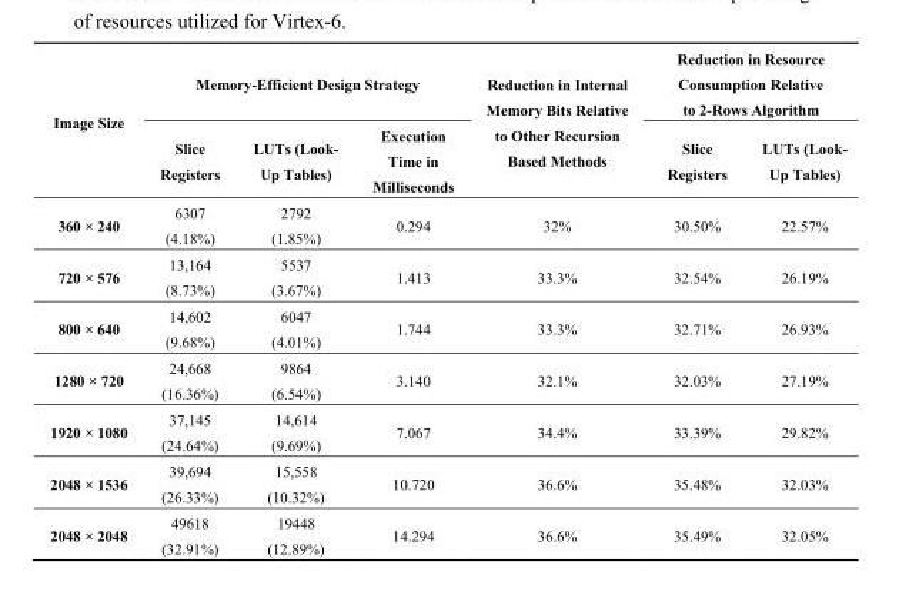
<table><thead><tr><td rowspan="2">Image Size</td><td colspan="3">Memory-Efficient Design Strategy</td><td rowspan="2">Reduction in Internal Memory Bits Relative to Other Recursion Based Methods</td><td colspan="2">Reduction in Resource Consumption Relative to 2-Rows Algorithm</td></tr><tr><td>Slice Registers</td><td>LUTs (Look- Up Tables)</td><td>Execution Time in Milliseconds</td><td>Slice Registers</td><td>LUTs (Look- Up Tables)</td></tr></thead><tbody><tr><td>360 × 240</td><td>6307 (4.18%)</td><td>2792 (1.85%)</td><td>0.294</td><td>32%</td><td>30.50%</td><td>22.57%</td></tr><tr><td>720 × 576</td><td>13,164 (8.73%)</td><td>5537 (3.67%)</td><td>1.413</td><td>33.3%</td><td>32.54%</td><td>26.19%</td></tr><tr><td>800 × 640</td><td>14,602 (9.68%)</td><td>6047 (4.01%)</td><td>1.744</td><td>33.3%</td><td>32.71%</td><td>26.93%</td></tr><tr><td>1280 × 720</td><td>24,668 (16.36%)</td><td>9864 (6.54%)</td><td>3.140</td><td>32.1%</td><td>32.03%</td><td>27.19%</td></tr><tr><td>1920 × 1080</td><td>37,145 (24.64%)</td><td>14,614 (9.69%)</td><td>7.067</td><td>34.4%</td><td>33.39%</td><td>29.82%</td></tr><tr><td>2048 × 1536</td><td>39,694 (26.33%)</td><td>15,558 (10.32%)</td><td>10.720</td><td>36.6%</td><td>35.48%</td><td>32.03%</td></tr><tr><td>2048 × 2048</td><td>49618 (32.91%)</td><td>19448 (12.89%)</td><td>14.294</td><td>36.6%</td><td>35.49%</td><td>32.05%</td></tr></tbody></table>